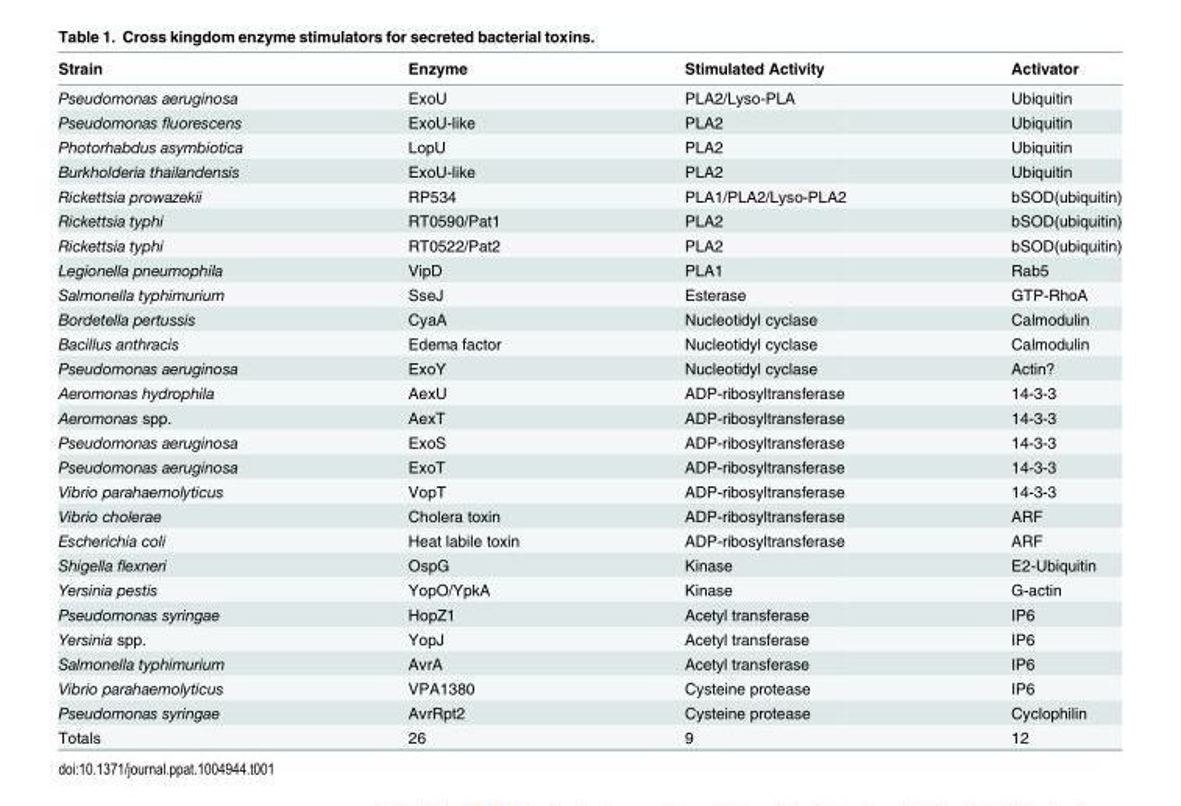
<table><thead><tr><td>Strain</td><td>Enzyme</td><td>Stimulated Activity</td><td>Activator</td></tr></thead><tbody><tr><td>Pseudomonas aeruginosa</td><td>ExoU</td><td>PLA2/Lyso-PLA</td><td>Ubiquitin</td></tr><tr><td>Pseudomonas fluorescens</td><td>ExoU-like</td><td>PLA2</td><td>Ubiquitin</td></tr><tr><td>Photorhabdus asymbiotica</td><td>LopU</td><td>PLA2</td><td>Ubiquitin</td></tr><tr><td>Burkholderia thailandensis</td><td>ExoU-like</td><td>PLA2</td><td>Ubiquitin</td></tr><tr><td>Rickettsia prowazekii</td><td>RP534</td><td>PLA1/PLA2/Lyso-PLA2</td><td>bSOD(ubiquitin)</td></tr><tr><td>Rickettsia typhi</td><td>RT0590/Pat1</td><td>PLA2</td><td>bSOD(ubiquitin)</td></tr><tr><td>Rickettsia typhi</td><td>RT0522/Pat2</td><td>PLA2</td><td>bSOD(ubiquitin)</td></tr><tr><td>Legionella pneumophila</td><td>VipD</td><td>PLA1</td><td>Rab5</td></tr><tr><td>Salmonella typhimurium</td><td>SseJ</td><td>Esterase</td><td>GTP-RhoA</td></tr><tr><td>Bordetella pertussis</td><td>CyaA</td><td>Nucleotidyl cyclase</td><td>Calmodulin</td></tr><tr><td>Bacillus anthracis</td><td>Edema factor</td><td>Nucleotidyl cyclase</td><td>Calmodulin</td></tr><tr><td>Pseudomonas aeruginosa</td><td>ExoY</td><td>Nucleotidyl cyclase</td><td>Actin?</td></tr><tr><td>Aeromonas hydrophila</td><td>AexU</td><td>ADP-ribosyltransferase</td><td>14-3-3</td></tr><tr><td>Aeromonas spp.</td><td>AexT</td><td>ADP-ribosyltransferase</td><td>14-3-3</td></tr><tr><td>Pseudomonas aeruginosa</td><td>ExoS</td><td>ADP-ribosyltransferase</td><td>14-3-3</td></tr><tr><td>Pseudomonas aeruginosa</td><td>ExoT</td><td>ADP-ribosyltransferase</td><td>14-3-3</td></tr><tr><td>Vibrio parahaemolyticus</td><td>VopT</td><td>ADP-ribosyltransferase</td><td>14-3-3</td></tr><tr><td>Vibrio cholerae</td><td>Cholera toxin</td><td>ADP-ribosyltransferase</td><td>ARF</td></tr><tr><td>Escherichia coli</td><td>Heat labile toxin</td><td>ADP-ribosyltransferase</td><td>ARF</td></tr><tr><td>Shigella flexneri</td><td>OspG</td><td>Kinase</td><td>E2-Ubiquitin</td></tr><tr><td>Yersinia pestis</td><td>YopO/YpkA</td><td>Kinase</td><td>G-actin</td></tr><tr><td>Pseudomonas syringae</td><td>HopZ1</td><td>Acetyl transferase</td><td>IP6</td></tr><tr><td>Yersinia spp.</td><td>YopJ</td><td>Acetyl transferase</td><td>IP6</td></tr><tr><td>Salmonella typhimurium</td><td>AvrA</td><td>Acetyl transferase</td><td>IP6</td></tr><tr><td>Vibrio parahaemolyticus</td><td>VPA1380</td><td>Cysteine protease</td><td>IP6</td></tr><tr><td>Pseudomonas syringae</td><td>AvrRpt2</td><td>Cysteine protease</td><td>Cyclophilin</td></tr><tr><td>Totals</td><td>26</td><td>9</td><td>12</td></tr></tbody></table>